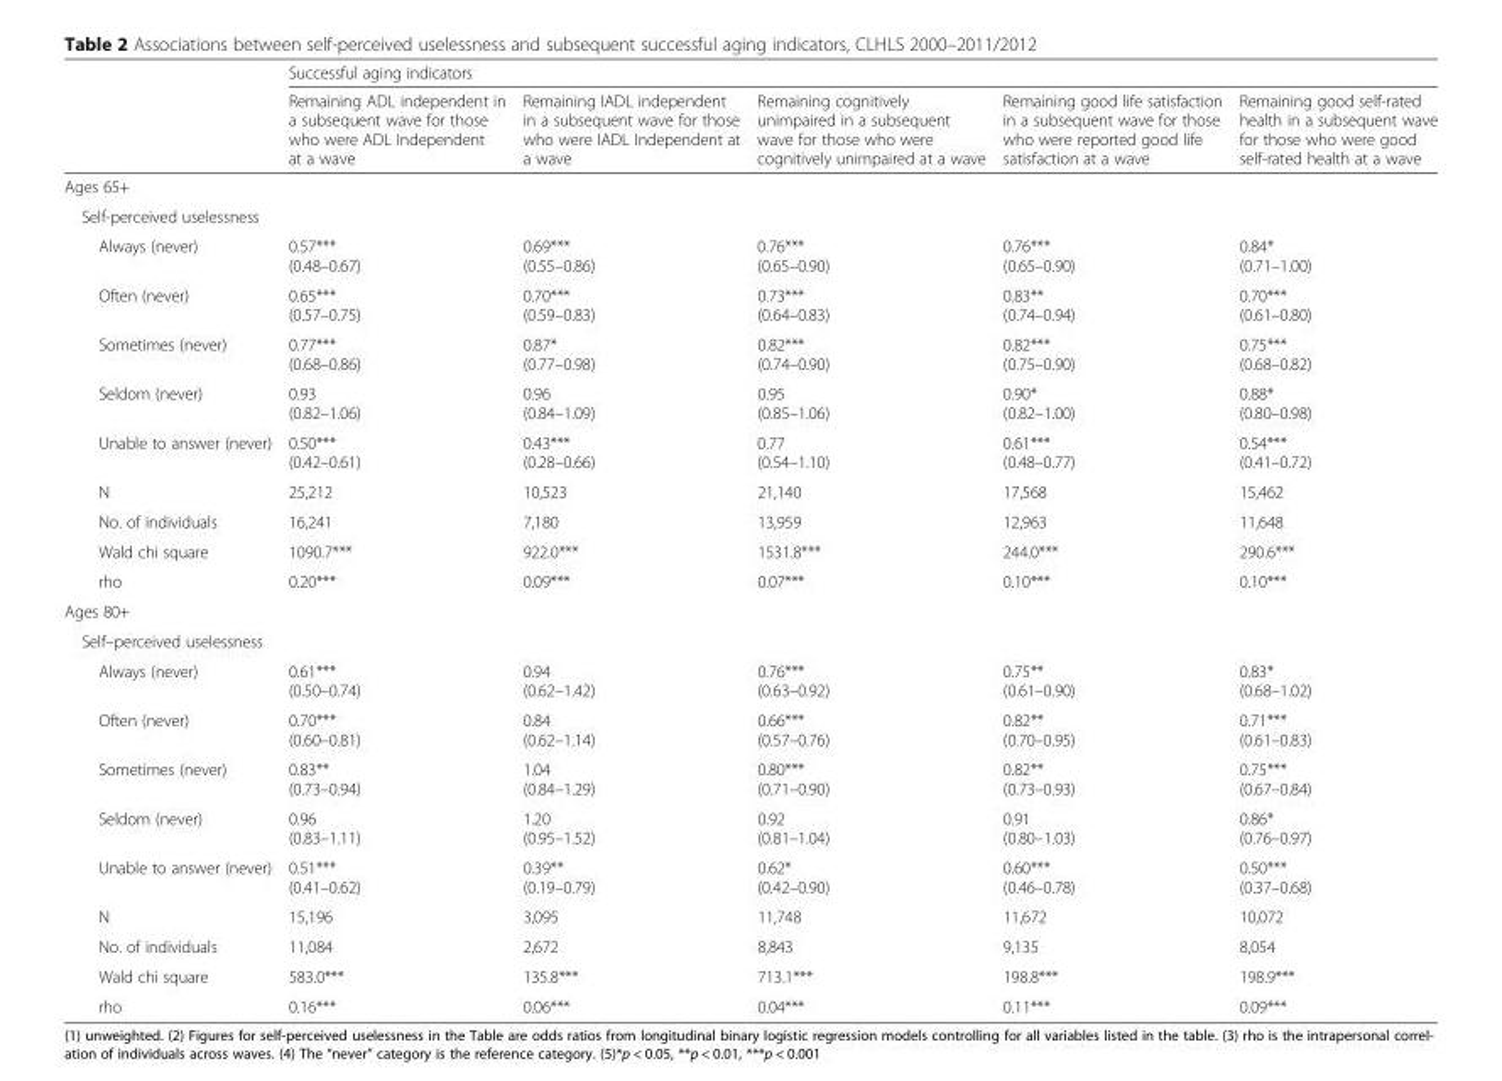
<table><thead><tr><td rowspan="2"></td><td colspan="5">Successful aging indicators</td></tr><tr><td>Remaining ADL independent in a subsequent wave for those who were ADL Independent at a wave</td><td>Remaining IADL independent in a subsequent wave for those who were IADL Independent at a wave</td><td>Remaining cognitively unimpaired in a subsequent wave for those who were cognitively unimpaired at a wave</td><td>Remaining good life satisfaction in a subsequent wave for those who were reported good life satisfaction at a wave</td><td>Remaining good self-rated health in a subsequent wave for those who were good self-rated health at a wave</td></tr></thead><tbody><tr><td colspan="6">Ages 65+</td></tr><tr><td colspan="6">Self-perceived uselessness</td></tr><tr><td>Always (never)</td><td>0.57*** (0.48–0.67)</td><td>0.69*** (0.55–0.86)</td><td>0.76*** (0.65–0.90)</td><td>0.76*** (0.65–0.90)</td><td>0.84* (0.71–1.00)</td></tr><tr><td>Often (never)</td><td>0.65*** (0.57–0.75)</td><td>0.70*** (0.59–0.83)</td><td>0.73*** (0.64–0.83)</td><td>0.83** (0.74–0.94)</td><td>0.70*** (0.61–0.80)</td></tr><tr><td>Sometimes (never)</td><td>0.77*** (0.68–0.86)</td><td>0.87* (0.77–0.98)</td><td>0.82*** (0.74–0.90)</td><td>0.82*** (0.75–0.90)</td><td>0.75*** (0.68–0.82)</td></tr><tr><td>Seldom (never)</td><td>0.93 (0.82–1.06)</td><td>0.96 (0.84–1.09)</td><td>0.95 (0.85–1.06)</td><td>0.90* (0.82–1.00)</td><td>0.88* (0.80–0.98)</td></tr><tr><td>Unable to answer (never)</td><td>0.50*** (0.42–0.61)</td><td>0.43*** (0.28–0.66)</td><td>0.77 (0.54–1.10)</td><td>0.61*** (0.48–0.77)</td><td>0.54*** (0.41–0.72)</td></tr><tr><td>N</td><td>25,212</td><td>10,523</td><td>21,140</td><td>17,568</td><td>15,462</td></tr><tr><td>No. of individuals</td><td>16,241</td><td>7,180</td><td>13,959</td><td>12,963</td><td>11,648</td></tr><tr><td>Wald chi square</td><td>1090.7***</td><td>922.0***</td><td>1531.8***</td><td>244.0***</td><td>290.6***</td></tr><tr><td>rho</td><td>0.20***</td><td>0.09***</td><td>0.07***</td><td>0.10***</td><td>0.10***</td></tr><tr><td colspan="6">Ages 80+</td></tr><tr><td colspan="6">Self–perceived uselessness</td></tr><tr><td>Always (never)</td><td>0.61*** (0.50–0.74)</td><td>0.94 (0.62–1.42)</td><td>0.76*** (0.63–0.92)</td><td>0.75** (0.61–0.90)</td><td>0.83* (0.68–1.02)</td></tr><tr><td>Often (never)</td><td>0.70*** (0.60–0.81)</td><td>0.84 (0.62–1.14)</td><td>0.66*** (0.57–0.76)</td><td>0.82** (0.70–0.95)</td><td>0.71*** (0.61–0.83)</td></tr><tr><td>Sometimes (never)</td><td>0.83** (0.73–0.94)</td><td>1.04 (0.84–1.29)</td><td>0.80*** (0.71–0.90)</td><td>0.82** (0.73–0.93)</td><td>0.75*** (0.67–0.84)</td></tr><tr><td>Seldom (never)</td><td>0.96 (0.83–1.11)</td><td>1.20 (0.95–1.52)</td><td>0.92 (0.81–1.04)</td><td>0.91 (0.80–1.03)</td><td>0.86* (0.76–0.97)</td></tr><tr><td>Unable to answer (never)</td><td>0.51*** (0.41–0.62)</td><td>0.39** (0.19–0.79)</td><td>0.62* (0.42–0.90)</td><td>0.60*** (0.46–0.78)</td><td>0.50*** (0.37–0.68)</td></tr><tr><td>N</td><td>15,196</td><td>3,095</td><td>11,748</td><td>11,672</td><td>10,072</td></tr><tr><td>No. of individuals</td><td>11,084</td><td>2,672</td><td>8,843</td><td>9,135</td><td>8,054</td></tr><tr><td>Wald chi square</td><td>583.0***</td><td>135.8***</td><td>713.1***</td><td>198.8***</td><td>198.9***</td></tr><tr><td>rho</td><td>0.16***</td><td>0.06***</td><td>0.04***</td><td>0.11***</td><td>0.09***</td></tr></tbody></table>